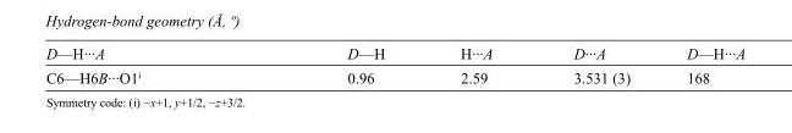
<table><tbody><tr><td>D—H···A</td><td>D—H</td><td>H···A</td><td>D···A</td><td>D—H···A</td></tr><tr><td>C6—H6B···O1<sup>i</sup></td><td>0.96</td><td>2.59</td><td>3.531 (3)</td><td>168</td></tr></tbody></table>